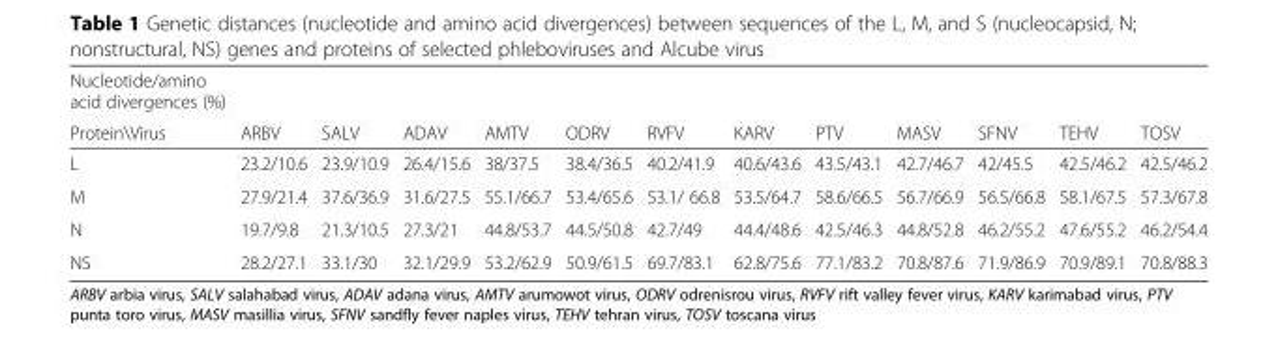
<table><thead><tr><td rowspan="2">Nucleotide/amino acid divergences (%) Protein\Virus</td><td rowspan="2">ARBV</td><td rowspan="2">SALV</td><td rowspan="2">ADAV</td><td rowspan="2">AMTV</td><td rowspan="2">ODRV</td><td rowspan="2">RVFV</td><td rowspan="2">KARV</td><td rowspan="2">PTV</td><td rowspan="2">MASV</td><td rowspan="2">SFNV</td><td rowspan="2">TEHV</td><td rowspan="2">TOSV</td></tr><tr></tr></thead><tbody><tr><td>L</td><td>23.2/10.6</td><td>23.9/10.9</td><td>26.4/15.6</td><td>38/37.5</td><td>38.4/36.5</td><td>40.2/41.9</td><td>40.6/43.6</td><td>43.5/43.1</td><td>42.7/46.7</td><td>42/45.5</td><td>42.5/46.2</td><td>42.5/46.2</td></tr><tr><td>M</td><td>27.9/21.4</td><td>37.6/36.9</td><td>31.6/27.5</td><td>55.1/66.7</td><td>53.4/65.6</td><td>53.1/ 66.8</td><td>53.5/64.7</td><td>58.6/66.5</td><td>56.7/66.9</td><td>56.5/66.8</td><td>58.1/67.5</td><td>57.3/67.8</td></tr><tr><td>N</td><td>19.7/9.8</td><td>21.3/10.5</td><td>27.3/21</td><td>44.8/53.7</td><td>44.5/50.8</td><td>42.7/49</td><td>44.4/48.6</td><td>42.5/46.3</td><td>44.8/52.8</td><td>46.2/55.2</td><td>47.6/55.2</td><td>46.2/54.4</td></tr><tr><td>NS</td><td>28.2/27.1</td><td>33.1/30</td><td>32.1/29.9</td><td>53.2/62.9</td><td>50.9/61.5</td><td>69.7/83.1</td><td>62.8/75.6</td><td>77.1/83.2</td><td>70.8/87.6</td><td>71.9/86.9</td><td>70.9/89.1</td><td>70.8/88.3</td></tr></tbody></table>